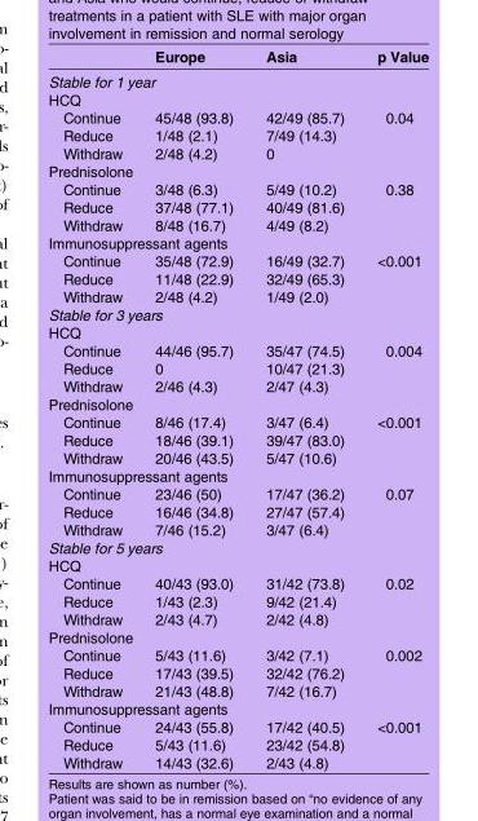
<table><thead><tr><td></td><td>Europe</td><td>Asia</td><td>p Value</td></tr></thead><tbody><tr><td colspan="4">Stable for 1 year</td></tr><tr><td colspan="4">HCQ</td></tr><tr><td>Continue</td><td>45/48 (93.8)</td><td>42/49 (85.7)</td><td>0.04</td></tr><tr><td>Reduce</td><td>1/48 (2.1)</td><td>7/49 (14.3)</td><td></td></tr><tr><td>Withdraw</td><td>2/48 (4.2)</td><td>0</td><td></td></tr><tr><td colspan="4">Prednisolone</td></tr><tr><td>Continue</td><td>3/48 (6.3)</td><td>5/49 (10.2)</td><td>0.38</td></tr><tr><td>Reduce</td><td>37/48 (77.1)</td><td>40/49 (81.6)</td><td></td></tr><tr><td>Withdraw</td><td>8/48 (16.7)</td><td>4/49 (8.2)</td><td></td></tr><tr><td colspan="4">Immunosuppressant agents</td></tr><tr><td>Continue</td><td>35/48 (72.9)</td><td>16/49 (32.7)</td><td>&lt;0.001</td></tr><tr><td>Reduce</td><td>11/48 (22.9)</td><td>32/49 (65.3)</td><td></td></tr><tr><td>Withdraw</td><td>2/48 (4.2)</td><td>1/49 (2.0)</td><td></td></tr><tr><td colspan="4">Stable for 3 years</td></tr><tr><td colspan="4">HCQ</td></tr><tr><td>Continue</td><td>44/46 (95.7)</td><td>35/47 (74.5)</td><td>0.004</td></tr><tr><td>Reduce</td><td>0</td><td>10/47 (21.3)</td><td></td></tr><tr><td>Withdraw</td><td>2/46 (4.3)</td><td>2/47 (4.3)</td><td></td></tr><tr><td colspan="4">Prednisolone</td></tr><tr><td>Continue</td><td>8/46 (17.4)</td><td>3/47 (6.4)</td><td>&lt;0.001</td></tr><tr><td>Reduce</td><td>18/46 (39.1)</td><td>39/47 (83.0)</td><td></td></tr><tr><td>Withdraw</td><td>20/46 (43.5)</td><td>5/47 (10.6)</td><td></td></tr><tr><td colspan="4">Immunosuppressant agents</td></tr><tr><td>Continue</td><td>23/46 (50)</td><td>17/47 (36.2)</td><td>0.07</td></tr><tr><td>Reduce</td><td>16/46 (34.8)</td><td>27/47 (57.4)</td><td></td></tr><tr><td>Withdraw</td><td>7/46 (15.2)</td><td>3/47 (6.4)</td><td></td></tr><tr><td colspan="4">Stable for 5 years</td></tr><tr><td colspan="4">HCQ</td></tr><tr><td>Continue</td><td>40/43 (93.0)</td><td>31/42 (73.8)</td><td>0.02</td></tr><tr><td>Reduce</td><td>1/43 (2.3)</td><td>9/42 (21.4)</td><td></td></tr><tr><td>Withdraw</td><td>2/43 (4.7)</td><td>2/42 (4.8)</td><td></td></tr><tr><td colspan="4">Prednisolone</td></tr><tr><td>Continue</td><td>5/43 (11.6)</td><td>3/42 (7.1)</td><td>0.002</td></tr><tr><td>Reduce</td><td>17/43 (39.5)</td><td>32/42 (76.2)</td><td></td></tr><tr><td>Withdraw</td><td>21/43 (48.8)</td><td>7/42 (16.7)</td><td></td></tr><tr><td colspan="4">Immunosuppressant agents</td></tr><tr><td>Continue</td><td>24/43 (55.8)</td><td>17/42 (40.5)</td><td>&lt;0.001</td></tr><tr><td>Reduce</td><td>5/43 (11.6)</td><td>23/42 (54.8)</td><td></td></tr><tr><td>Withdraw</td><td>14/43 (32.6)</td><td>2/43 (4.8)</td><td></td></tr></tbody></table>